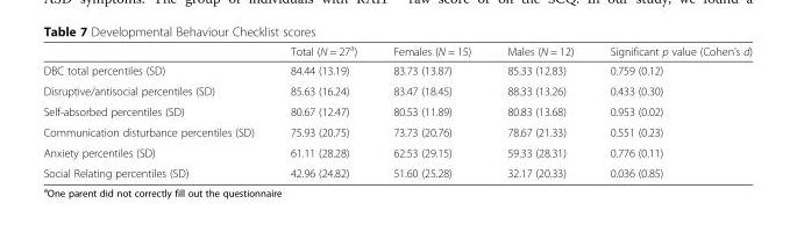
<table><thead><tr><td></td><td>Total (N = 27<sup>a</sup>)</td><td>Females (N = 15)</td><td>Males (N = 12)</td><td>Significant p value (Cohen’s d)</td></tr></thead><tbody><tr><td>DBC total percentiles (SD)</td><td>84.44 (13.19)</td><td>83.73 (13.87)</td><td>85.33 (12.83)</td><td>0.759 (0.12)</td></tr><tr><td>Disruptive/antisocial percentiles (SD)</td><td>85.63 (16.24)</td><td>83.47 (18.45)</td><td>88.33 (13.26)</td><td>0.433 (0.30)</td></tr><tr><td>Self-absorbed percentiles (SD)</td><td>80.67 (12.47)</td><td>80.53 (11.89)</td><td>80.83 (13.68)</td><td>0.953 (0.02)</td></tr><tr><td>Communication disturbance percentiles (SD)</td><td>75.93 (20.75)</td><td>73.73 (20.76)</td><td>78.67 (21.33)</td><td>0.551 (0.23)</td></tr><tr><td>Anxiety percentiles (SD)</td><td>61.11 (28.28)</td><td>62.53 (29.15)</td><td>59.33 (28.31)</td><td>0.776 (0.11)</td></tr><tr><td>Social Relating percentiles (SD)</td><td>42.96 (24.82)</td><td>51.60 (25.28)</td><td>32.17 (20.33)</td><td>0.036 (0.85)</td></tr></tbody></table>